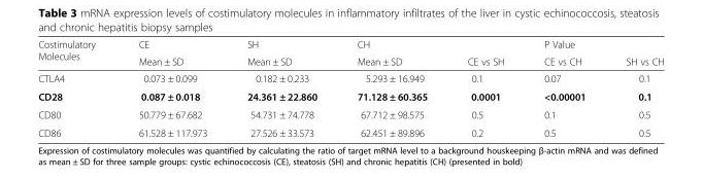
<table><thead><tr><td rowspan="2">Costimulatory Molecules</td><td rowspan="2">CE Mean ± SD</td><td rowspan="2">SH Mean ± SD</td><td rowspan="2">CH Mean ± SD</td><td rowspan="2">CE vs SH</td><td rowspan="2">P Value CE vs CH</td><td rowspan="2">SH vs CH</td></tr><tr></tr></thead><tbody><tr><td>CTLA4</td><td>0.073 ± 0.099</td><td>0.182 ± 0.233</td><td>5.293 ± 16.949</td><td>0.1</td><td>0.07</td><td>0.1</td></tr><tr><td>CD28</td><td>0.087 ± 0.018</td><td>24.361 ± 22.860</td><td>71.128 ± 60.365</td><td>0.0001</td><td>&lt;0.00001</td><td>0.1</td></tr><tr><td>CD80</td><td>50.779 ± 67.682</td><td>54.731 ± 74.778</td><td>67.712 ± 98.575</td><td>0.5</td><td>0.1</td><td>0.5</td></tr><tr><td>CD86</td><td>61.528 ± 117.973</td><td>27.526 ± 33.573</td><td>62.451 ± 89.896</td><td>0.2</td><td>0.5</td><td>0.5</td></tr></tbody></table>